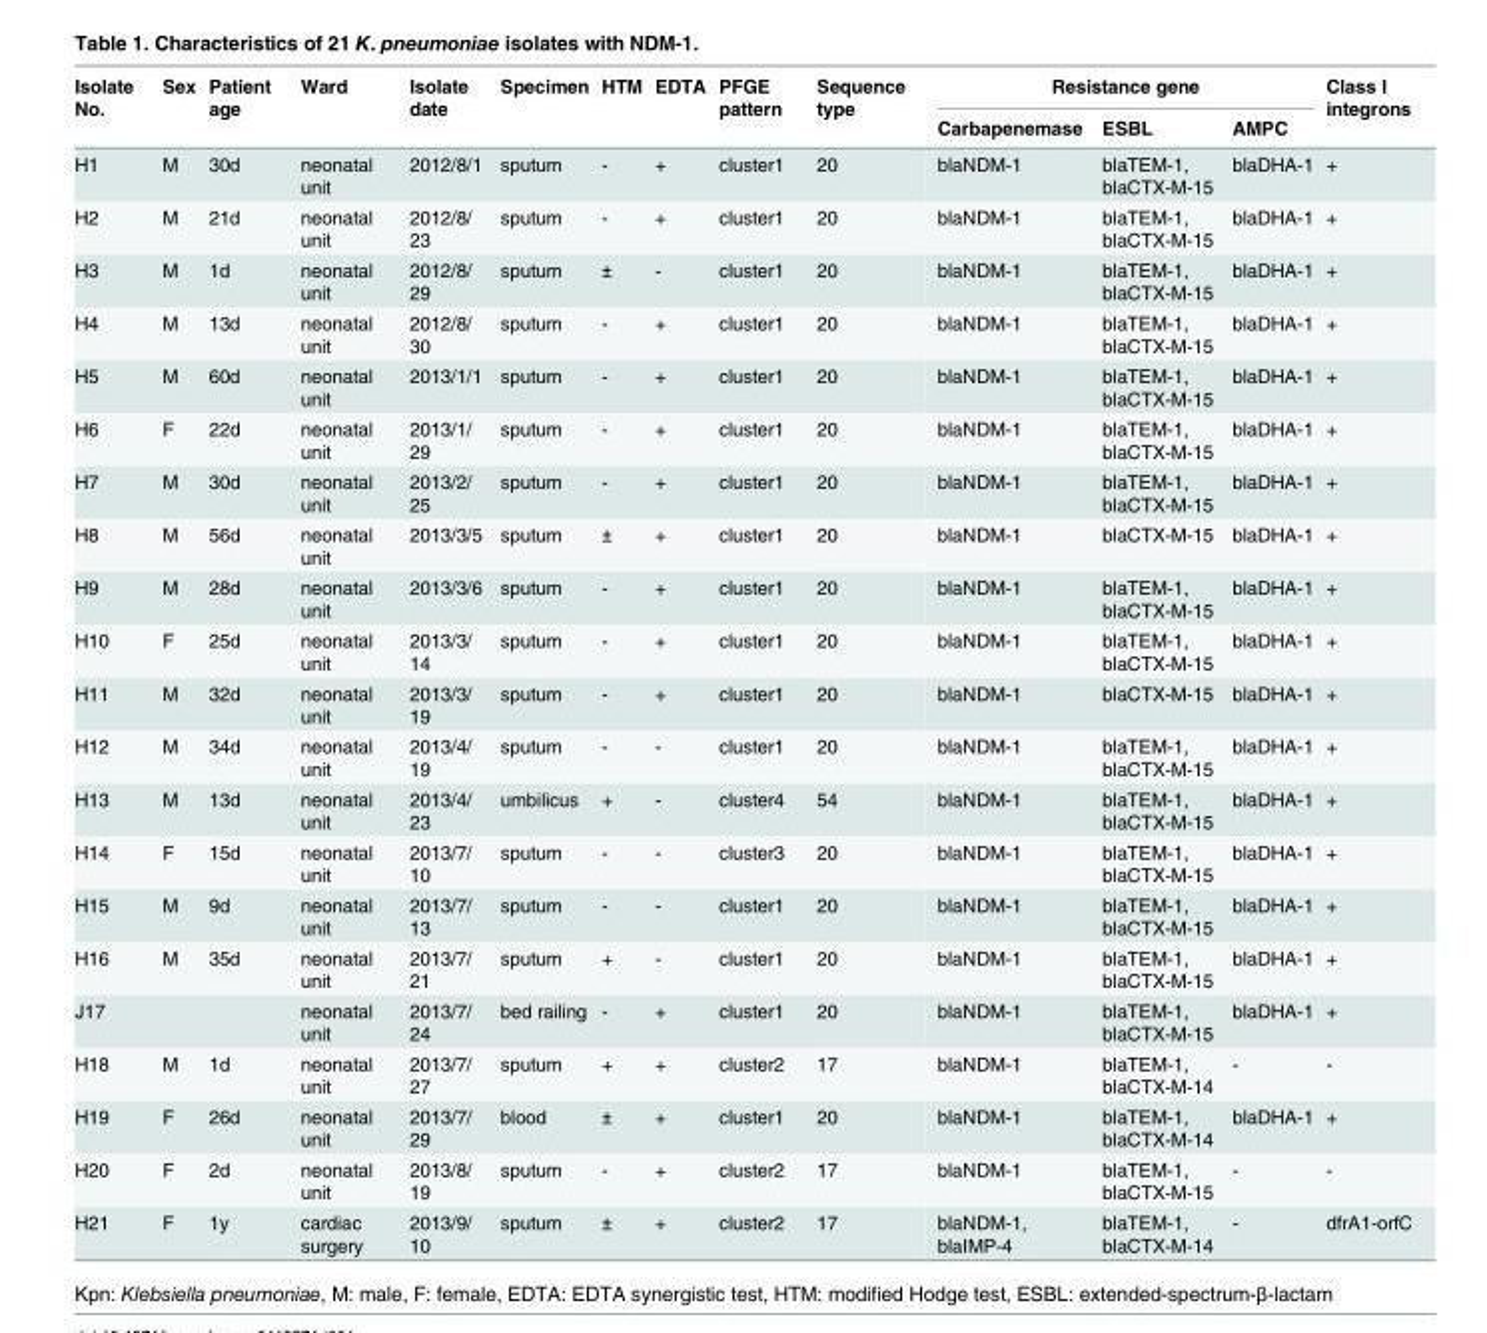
<table><thead><tr><td rowspan="2">Isolate No.</td><td rowspan="2">Sex</td><td rowspan="2">Patient age</td><td rowspan="2">Ward</td><td rowspan="2">Isolate date</td><td rowspan="2">Specimen</td><td rowspan="2">HTM</td><td rowspan="2">EDTA</td><td rowspan="2">PFGE pattern</td><td rowspan="2">Sequence type</td><td colspan="3">Resistance gene</td><td rowspan="2">Class I integrons</td></tr><tr><td>Carbapenemase</td><td>ESBL</td><td>AMPC</td></tr></thead><tbody><tr><td>H1</td><td>M</td><td>30d</td><td>neonatal unit</td><td>2012/8/1</td><td>sputum</td><td>-</td><td>+</td><td>cluster1</td><td>20</td><td>blaNDM-1</td><td>blaTEM-1, blaCTX-M-15</td><td>blaDHA-1</td><td>+</td></tr><tr><td>H2</td><td>M</td><td>21d</td><td>neonatal unit</td><td>2012/8/ 23</td><td>sputum</td><td>-</td><td>+</td><td>cluster1</td><td>20</td><td>blaNDM-1</td><td>blaTEM-1, blaCTX-M-15</td><td>blaDHA-1</td><td>+</td></tr><tr><td>H3</td><td>M</td><td>1d</td><td>neonatal unit</td><td>2012/8/ 29</td><td>sputum</td><td>±</td><td>-</td><td>cluster1</td><td>20</td><td>blaNDM-1</td><td>blaTEM-1, blaCTX-M-15</td><td>blaDHA-1</td><td>+</td></tr><tr><td>H4</td><td>M</td><td>13d</td><td>neonatal unit</td><td>2012/8/ 30</td><td>sputum</td><td>-</td><td>+</td><td>cluster1</td><td>20</td><td>blaNDM-1</td><td>blaTEM-1, blaCTX-M-15</td><td>blaDHA-1</td><td>+</td></tr><tr><td>H5</td><td>M</td><td>60d</td><td>neonatal unit</td><td>2013/1/1</td><td>sputum</td><td>-</td><td>+</td><td>cluster1</td><td>20</td><td>blaNDM-1</td><td>blaTEM-1, blaCTX-M-15</td><td>blaDHA-1</td><td>+</td></tr><tr><td>H6</td><td>F</td><td>22d</td><td>neonatal unit</td><td>2013/1/ 29</td><td>sputum</td><td>-</td><td>+</td><td>cluster1</td><td>20</td><td>blaNDM-1</td><td>blaTEM-1, blaCTX-M-15</td><td>blaDHA-1</td><td>+</td></tr><tr><td>H7</td><td>M</td><td>30d</td><td>neonatal unit</td><td>2013/2/ 25</td><td>sputum</td><td>-</td><td>+</td><td>cluster1</td><td>20</td><td>blaNDM-1</td><td>blaTEM-1, blaCTX-M-15</td><td>blaDHA-1</td><td>+</td></tr><tr><td>H8</td><td>M</td><td>56d</td><td>neonatal unit</td><td>2013/3/5</td><td>sputum</td><td>±</td><td>+</td><td>cluster1</td><td>20</td><td>blaNDM-1</td><td>blaCTX-M-15</td><td>blaDHA-1</td><td>+</td></tr><tr><td>H9</td><td>M</td><td>28d</td><td>neonatal unit</td><td>2013/3/6</td><td>sputum</td><td>-</td><td>+</td><td>cluster1</td><td>20</td><td>blaNDM-1</td><td>blaTEM-1, blaCTX-M-15</td><td>blaDHA-1</td><td>+</td></tr><tr><td>H10</td><td>F</td><td>25d</td><td>neonatal unit</td><td>2013/3/ 14</td><td>sputum</td><td>-</td><td>+</td><td>cluster1</td><td>20</td><td>blaNDM-1</td><td>blaTEM-1, blaCTX-M-15</td><td>blaDHA-1</td><td>+</td></tr><tr><td>H11</td><td>M</td><td>32d</td><td>neonatal unit</td><td>2013/3/ 19</td><td>sputum</td><td>-</td><td>+</td><td>cluster1</td><td>20</td><td>blaNDM-1</td><td>blaCTX-M-15</td><td>blaDHA-1</td><td>+</td></tr><tr><td>H12</td><td>M</td><td>34d</td><td>neonatal unit</td><td>2013/4/ 19</td><td>sputum</td><td>-</td><td>-</td><td>cluster1</td><td>20</td><td>blaNDM-1</td><td>blaTEM-1, blaCTX-M-15</td><td>blaDHA-1</td><td>+</td></tr><tr><td>H13</td><td>M</td><td>13d</td><td>neonatal unit</td><td>2013/4/ 23</td><td>umbilicus</td><td>+</td><td>-</td><td>cluster4</td><td>54</td><td>blaNDM-1</td><td>blaTEM-1, blaCTX-M-15</td><td>blaDHA-1</td><td>+</td></tr><tr><td>H14</td><td>F</td><td>15d</td><td>neonatal unit</td><td>2013/7/ 10</td><td>sputum</td><td>-</td><td>-</td><td>cluster3</td><td>20</td><td>blaNDM-1</td><td>blaTEM-1, blaCTX-M-15</td><td>blaDHA-1</td><td>+</td></tr><tr><td>H15</td><td>M</td><td>9d</td><td>neonatal unit</td><td>2013/7/ 13</td><td>sputum</td><td>-</td><td>-</td><td>cluster1</td><td>20</td><td>blaNDM-1</td><td>blaTEM-1, blaCTX-M-15</td><td>blaDHA-1</td><td>+</td></tr><tr><td>H16</td><td>M</td><td>35d</td><td>neonatal unit</td><td>2013/7/ 21</td><td>sputum</td><td>+</td><td>-</td><td>cluster1</td><td>20</td><td>blaNDM-1</td><td>blaTEM-1, blaCTX-M-15</td><td>blaDHA-1</td><td>+</td></tr><tr><td>J17</td><td></td><td></td><td>neonatal unit</td><td>2013/7/ 24</td><td>bed railing</td><td>-</td><td>+</td><td>cluster1</td><td>20</td><td>blaNDM-1</td><td>blaTEM-1, blaCTX-M-15</td><td>blaDHA-1</td><td>+</td></tr><tr><td>H18</td><td>M</td><td>1d</td><td>neonatal unit</td><td>2013/7/ 27</td><td>sputum</td><td>+</td><td>+</td><td>cluster2</td><td>17</td><td>blaNDM-1</td><td>blaTEM-1, blaCTX-M-14</td><td>-</td><td>-</td></tr><tr><td>H19</td><td>F</td><td>26d</td><td>neonatal unit</td><td>2013/7/ 29</td><td>blood</td><td>±</td><td>+</td><td>cluster1</td><td>20</td><td>blaNDM-1</td><td>blaTEM-1, blaCTX-M-14</td><td>blaDHA-1</td><td>+</td></tr><tr><td>H20</td><td>F</td><td>2d</td><td>neonatal unit</td><td>2013/8/ 19</td><td>sputum</td><td>-</td><td>+</td><td>cluster2</td><td>17</td><td>blaNDM-1</td><td>blaTEM-1, blaCTX-M-15</td><td>-</td><td>-</td></tr><tr><td>H21</td><td>F</td><td>1y</td><td>cardiac surgery</td><td>2013/9/ 10</td><td>sputum</td><td>±</td><td>+</td><td>cluster2</td><td>17</td><td>blaNDM-1, blaIMP-4</td><td>blaTEM-1, blaCTX-M-14</td><td>-</td><td>dfrA1-orfC</td></tr></tbody></table>